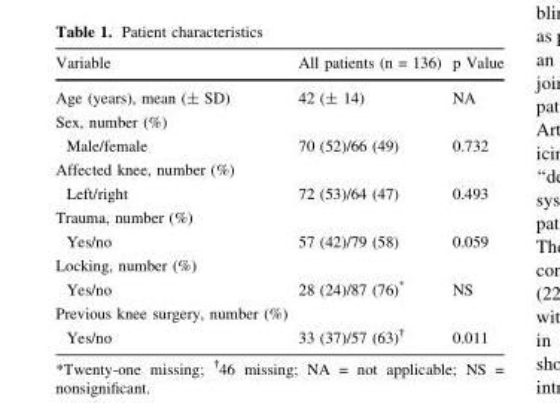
<table><thead><tr><td>Variable</td><td>All patients (n = 136)</td><td>p Value</td></tr></thead><tbody><tr><td>Age (years), mean (± SD)</td><td>42 (± 14)</td><td>NA</td></tr><tr><td colspan="3">Sex, number (%)</td></tr><tr><td>Male/female</td><td>70 (52)/66 (49)</td><td>0.732</td></tr><tr><td colspan="3">Affected knee, number (%)</td></tr><tr><td>Left/right</td><td>72 (53)/64 (47)</td><td>0.493</td></tr><tr><td colspan="3">Trauma, number (%)</td></tr><tr><td>Yes/no</td><td>57 (42)/79 (58)</td><td>0.059</td></tr><tr><td colspan="3">Locking, number (%)</td></tr><tr><td>Yes/no</td><td>28 (24)/87 (76)*</td><td>NS</td></tr><tr><td colspan="3">Previous knee surgery, number (%)</td></tr><tr><td>Yes/no</td><td>33 (37)/57 (63)<sup>†</sup></td><td>0.011</td></tr></tbody></table>